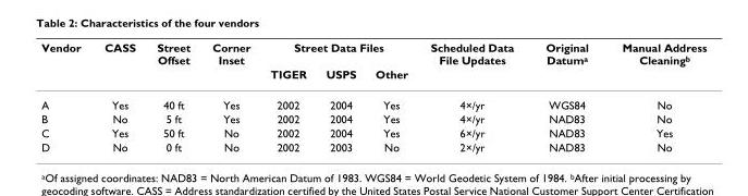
<table><thead><tr><td rowspan="2">Vendor</td><td rowspan="2">CASS</td><td rowspan="2">Street Offset</td><td rowspan="2">Corner Inset</td><td colspan="3">Street Data Files</td><td rowspan="2">Scheduled Data File Updates</td><td rowspan="2">Original Datuma</td><td rowspan="2">Manual Address Cleaning<sup>b</sup></td></tr><tr><td>TIGER</td><td>USPS</td><td>Other</td></tr></thead><tbody><tr><td>A</td><td>Yes</td><td>40 ft</td><td>Yes</td><td>2002</td><td>2004</td><td>Yes</td><td>4×/yr</td><td>WGS84</td><td>No</td></tr><tr><td>B</td><td>No</td><td>5 ft</td><td>Yes</td><td>2002</td><td>2004</td><td>Yes</td><td>4×/yr</td><td>NAD83</td><td>No</td></tr><tr><td>C</td><td>Yes</td><td>50 ft</td><td>No</td><td>2002</td><td>2004</td><td>Yes</td><td>6×/yr</td><td>NAD83</td><td>Yes</td></tr><tr><td>D</td><td>No</td><td>0 ft</td><td>No</td><td>2002</td><td>2003</td><td>No</td><td>2×/yr</td><td>NAD83</td><td>No</td></tr></tbody></table>